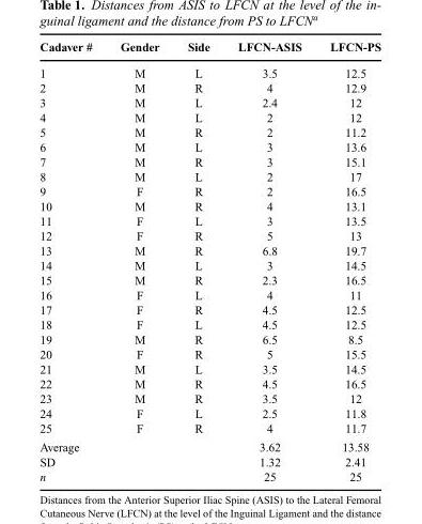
<table><thead><tr><td>Cadaver #</td><td>Gender</td><td>Side</td><td>LFCN-ASIS</td><td>LFCN-PS</td></tr></thead><tbody><tr><td>1</td><td>M</td><td>L</td><td>3.5</td><td>12.5</td></tr><tr><td>2</td><td>M</td><td>R</td><td>4</td><td>12.9</td></tr><tr><td>3</td><td>M</td><td>L</td><td>2.4</td><td>12</td></tr><tr><td>4</td><td>M</td><td>L</td><td>2</td><td>12</td></tr><tr><td>5</td><td>M</td><td>R</td><td>2</td><td>11.2</td></tr><tr><td>6</td><td>M</td><td>L</td><td>3</td><td>13.6</td></tr><tr><td>7</td><td>M</td><td>R</td><td>3</td><td>15.1</td></tr><tr><td>8</td><td>M</td><td>L</td><td>2</td><td>17</td></tr><tr><td>9</td><td>F</td><td>R</td><td>2</td><td>16.5</td></tr><tr><td>10</td><td>M</td><td>R</td><td>4</td><td>13.1</td></tr><tr><td>11</td><td>F</td><td>L</td><td>3</td><td>13.5</td></tr><tr><td>12</td><td>F</td><td>R</td><td>5</td><td>13</td></tr><tr><td>13</td><td>M</td><td>R</td><td>6.8</td><td>19.7</td></tr><tr><td>14</td><td>M</td><td>L</td><td>3</td><td>14.5</td></tr><tr><td>15</td><td>M</td><td>R</td><td>2.3</td><td>16.5</td></tr><tr><td>16</td><td>F</td><td>L</td><td>4</td><td>11</td></tr><tr><td>17</td><td>F</td><td>R</td><td>4.5</td><td>12.5</td></tr><tr><td>18</td><td>F</td><td>L</td><td>4.5</td><td>12.5</td></tr><tr><td>19</td><td>M</td><td>R</td><td>6.5</td><td>8.5</td></tr><tr><td>20</td><td>F</td><td>R</td><td>5</td><td>15.5</td></tr><tr><td>21</td><td>M</td><td>L</td><td>3.5</td><td>14.5</td></tr><tr><td>22</td><td>M</td><td>R</td><td>4.5</td><td>16.5</td></tr><tr><td>23</td><td>M</td><td>R</td><td>3.5</td><td>12</td></tr><tr><td>24</td><td>F</td><td>L</td><td>2.5</td><td>11.8</td></tr><tr><td>25</td><td>F</td><td>R</td><td>4</td><td>11.7</td></tr><tr><td>Average</td><td></td><td></td><td>3.62</td><td>13.58</td></tr><tr><td>SD</td><td></td><td></td><td>1.32</td><td>2.41</td></tr><tr><td>n</td><td></td><td></td><td>25</td><td>25</td></tr></tbody></table>